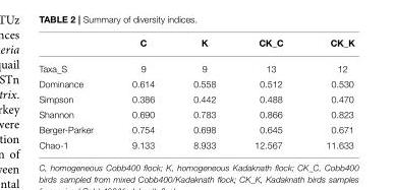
<table><thead><tr><td></td><td>C</td><td>K</td><td>CK_C</td><td>CK_K</td></tr></thead><tbody><tr><td>Taxa_S</td><td>9</td><td>9</td><td>13</td><td>12</td></tr><tr><td>Dominance</td><td>0.614</td><td>0.558</td><td>0.512</td><td>0.530</td></tr><tr><td>Simpson</td><td>0.386</td><td>0.442</td><td>0.488</td><td>0.470</td></tr><tr><td>Shannon</td><td>0.690</td><td>0.783</td><td>0.866</td><td>0.823</td></tr><tr><td>Berger-Parker</td><td>0.754</td><td>0.698</td><td>0.645</td><td>0.671</td></tr><tr><td>Chao-1</td><td>9.133</td><td>8.933</td><td>12.567</td><td>11.633</td></tr></tbody></table>